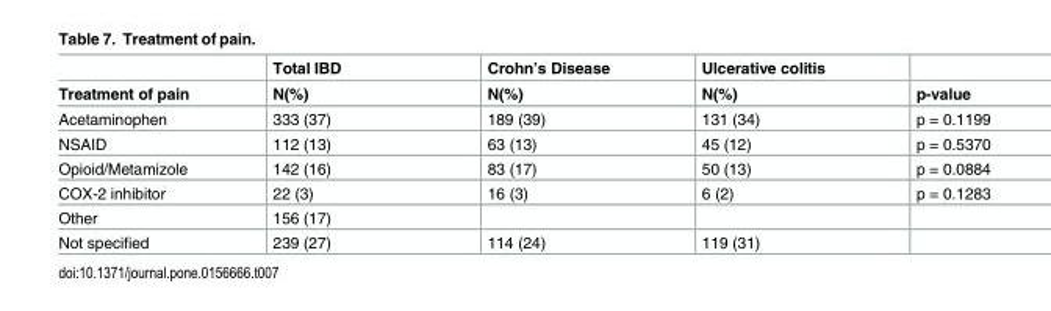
<table><thead><tr><td rowspan="2">Treatment of pain</td><td rowspan="2">Total IBD N(%)</td><td rowspan="2">Crohn’s Disease N(%)</td><td rowspan="2">Ulcerative colitis N(%)</td><td rowspan="2">p-value</td></tr><tr></tr></thead><tbody><tr><td>Acetaminophen</td><td>333 (37)</td><td>189 (39)</td><td>131 (34)</td><td>p = 0.1199</td></tr><tr><td>NSAID</td><td>112 (13)</td><td>63 (13)</td><td>45 (12)</td><td>p = 0.5370</td></tr><tr><td>Opioid/Metamizole</td><td>142 (16)</td><td>83 (17)</td><td>50 (13)</td><td>p = 0.0884</td></tr><tr><td>COX-2 inhibitor</td><td>22 (3)</td><td>16 (3)</td><td>6 (2)</td><td>p = 0.1283</td></tr><tr><td>Other</td><td>156 (17)</td><td></td><td></td><td></td></tr><tr><td>Not specified</td><td>239 (27)</td><td>114 (24)</td><td>119 (31)</td><td></td></tr></tbody></table>